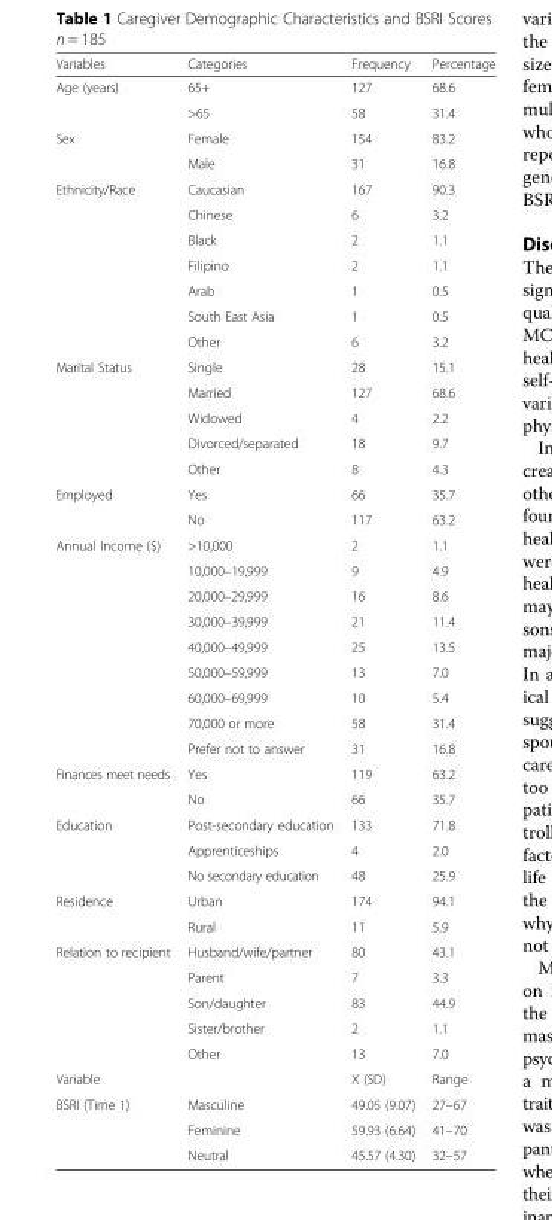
<table><thead><tr><td>Variables</td><td>Categories</td><td>Frequency</td><td>Percentage</td></tr></thead><tbody><tr><td rowspan="2">Age (years)</td><td>65+</td><td>127</td><td>68.6</td></tr><tr><td>&gt;65</td><td>58</td><td>31.4</td></tr><tr><td rowspan="2">Sex</td><td>Female</td><td>154</td><td>83.2</td></tr><tr><td>Male</td><td>31</td><td>16.8</td></tr><tr><td rowspan="7">Ethnicity/Race</td><td>Caucasian</td><td>167</td><td>90.3</td></tr><tr><td>Chinese</td><td>6</td><td>3.2</td></tr><tr><td>Black</td><td>2</td><td>1.1</td></tr><tr><td>Filipino</td><td>2</td><td>1.1</td></tr><tr><td>Arab</td><td>1</td><td>0.5</td></tr><tr><td>South East Asia</td><td>1</td><td>0.5</td></tr><tr><td>Other</td><td>6</td><td>3.2</td></tr><tr><td rowspan="5">Marital Status</td><td>Single</td><td>28</td><td>15.1</td></tr><tr><td>Married</td><td>127</td><td>68.6</td></tr><tr><td>Widowed</td><td>4</td><td>2.2</td></tr><tr><td>Divorced/separated</td><td>18</td><td>9.7</td></tr><tr><td>Other</td><td>8</td><td>4.3</td></tr><tr><td rowspan="2">Employed</td><td>Yes</td><td>66</td><td>35.7</td></tr><tr><td>No</td><td>117</td><td>63.2</td></tr><tr><td rowspan="9">Annual Income ($)</td><td>&gt;10,000</td><td>2</td><td>1.1</td></tr><tr><td>10,000–19,999</td><td>9</td><td>4.9</td></tr><tr><td>20,000–29,999</td><td>16</td><td>8.6</td></tr><tr><td>30,000–39,999</td><td>21</td><td>11.4</td></tr><tr><td>40,000–49,999</td><td>25</td><td>13.5</td></tr><tr><td>50,000–59,999</td><td>13</td><td>7.0</td></tr><tr><td>60,000–69,999</td><td>10</td><td>5.4</td></tr><tr><td>70,000 or more</td><td>58</td><td>31.4</td></tr><tr><td>Prefer not to answer</td><td>31</td><td>16.8</td></tr><tr><td rowspan="2">Finances meet needs</td><td>Yes</td><td>119</td><td>63.2</td></tr><tr><td>No</td><td>66</td><td>35.7</td></tr><tr><td rowspan="3">Education</td><td>Post-secondary education</td><td>133</td><td>71.8</td></tr><tr><td>Apprenticeships</td><td>4</td><td>2.0</td></tr><tr><td>No secondary education</td><td>48</td><td>25.9</td></tr><tr><td rowspan="2">Residence</td><td>Urban</td><td>174</td><td>94.1</td></tr><tr><td>Rural</td><td>11</td><td>5.9</td></tr><tr><td rowspan="5">Relation to recipient</td><td>Husband/wife/partner</td><td>80</td><td>43.1</td></tr><tr><td>Parent</td><td>7</td><td>3.3</td></tr><tr><td>Son/daughter</td><td>83</td><td>44.9</td></tr><tr><td>Sister/brother</td><td>2</td><td>1.1</td></tr><tr><td>Other</td><td>13</td><td>7.0</td></tr><tr><td>Variable</td><td></td><td>X (SD)</td><td>Range</td></tr><tr><td rowspan="3">BSRI (Time 1)</td><td>Masculine</td><td>49.05 (9.07)</td><td>27–67</td></tr><tr><td>Feminine</td><td>59.93 (6.64)</td><td>41–70</td></tr><tr><td>Neutral</td><td>45.57 (4.30)</td><td>32–57</td></tr></tbody></table>